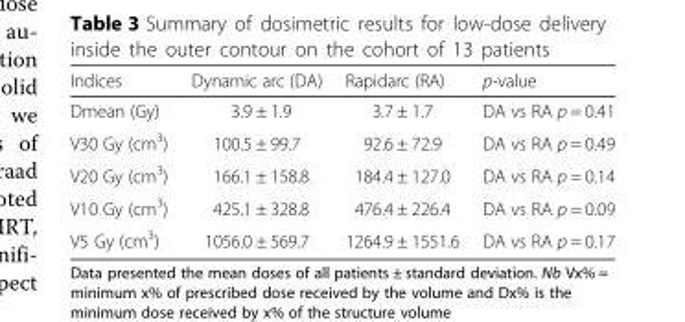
<table><thead><tr><td>Indices</td><td>Dynamic arc (DA)</td><td>Rapidarc (RA)</td><td>p-value</td></tr></thead><tbody><tr><td>Dmean (Gy)</td><td>3.9 ± 1.9</td><td>3.7 ± 1.7</td><td>DA vs RA p = 0.41</td></tr><tr><td>V30 Gy (cm<sup>3</sup>)</td><td>100.5 ± 99.7</td><td>92.6 ± 72.9</td><td>DA vs RA p = 0.49</td></tr><tr><td>V20 Gy (cm<sup>3</sup>)</td><td>166.1 ± 158.8</td><td>184.4 ± 127.0</td><td>DA vs RA p = 0.14</td></tr><tr><td>V10 Gy (cm<sup>3</sup>)</td><td>425.1 ± 328.8</td><td>476.4 ± 226.4</td><td>DA vs RA p = 0.09</td></tr><tr><td>V5 Gy (cm<sup>3</sup>)</td><td>1056.0 ± 569.7</td><td>1264.9 ± 1551.6</td><td>DA vs RA p = 0.17</td></tr></tbody></table>